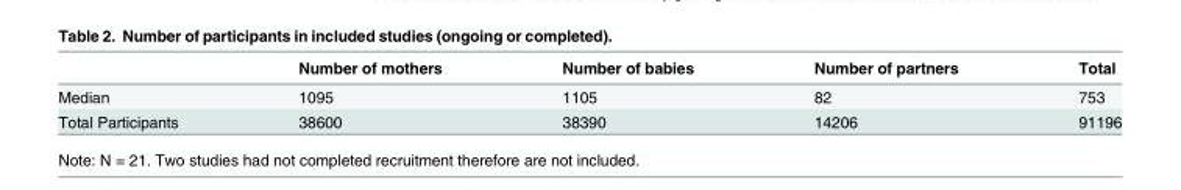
<table><thead><tr><td></td><td>Number of mothers</td><td>Number of babies</td><td>Number of partners</td><td>Total</td></tr></thead><tbody><tr><td>Median</td><td>1095</td><td>1105</td><td>82</td><td>753</td></tr><tr><td>Total Participants</td><td>38600</td><td>38390</td><td>14206</td><td>91196</td></tr></tbody></table>